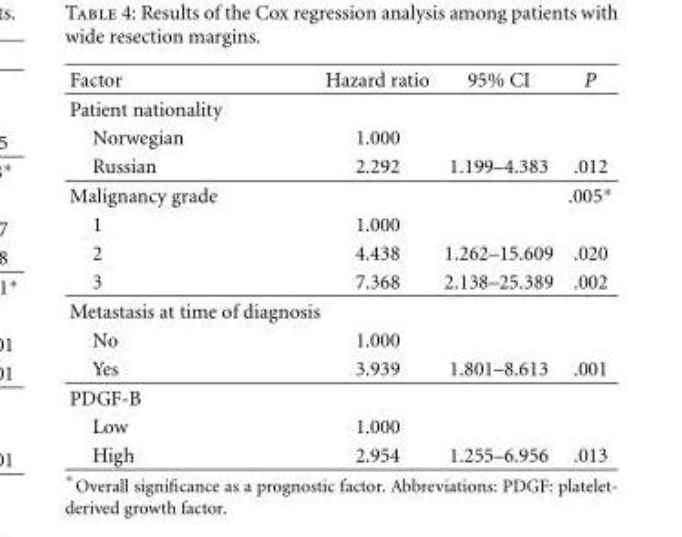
<table><thead><tr><td>Factor</td><td>Hazard ratio</td><td>95% CI</td><td>P</td></tr></thead><tbody><tr><td colspan="4">Patient nationality</td></tr><tr><td>Norwegian</td><td>1.000</td><td></td><td></td></tr><tr><td>Russian</td><td>2.292</td><td>1.199–4.383</td><td>.012</td></tr><tr><td>Malignancy grade</td><td></td><td></td><td>.005∗</td></tr><tr><td>1</td><td>1.000</td><td></td><td></td></tr><tr><td>2</td><td>4.438</td><td>1.262–15.609</td><td>.020</td></tr><tr><td>3</td><td>7.368</td><td>2.138–25.389</td><td>.002</td></tr><tr><td colspan="4">Metastasis at time of diagnosis</td></tr><tr><td>No</td><td>1.000</td><td></td><td></td></tr><tr><td>Yes</td><td>3.939</td><td>1.801–8.613</td><td>.001</td></tr><tr><td colspan="4">PDGF-B</td></tr><tr><td>Low</td><td>1.000</td><td></td><td></td></tr><tr><td>High</td><td>2.954</td><td>1.255–6.956</td><td>.013</td></tr></tbody></table>